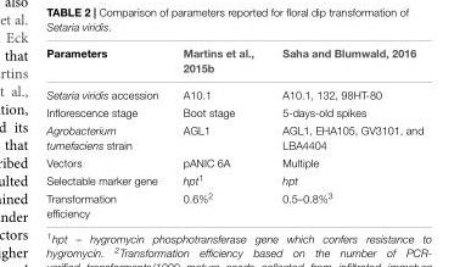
<table><thead><tr><td>Parameters</td><td>Martins et al., 2015b</td><td>Saha and Blumwald, 2016</td></tr></thead><tbody><tr><td>Setaria viridis accession</td><td>A10.1</td><td>A10.1, 132, 98HT-80</td></tr><tr><td>Inflorescence stage</td><td>Boot stage</td><td>5-days-old spikes</td></tr><tr><td>Agrobacterium tumefaciens strain</td><td>AGL1</td><td>AGL1, EHA105, GV3101, and LBA4404</td></tr><tr><td>Vectors</td><td>pANIC 6A</td><td>Multiple</td></tr><tr><td>Selectable marker gene</td><td>hpt<sup>1</sup></td><td>hpt</td></tr><tr><td>Transformation efficiency</td><td>0.6%<sup>2</sup></td><td>0.5–0.8%<sup>3</sup></td></tr></tbody></table>